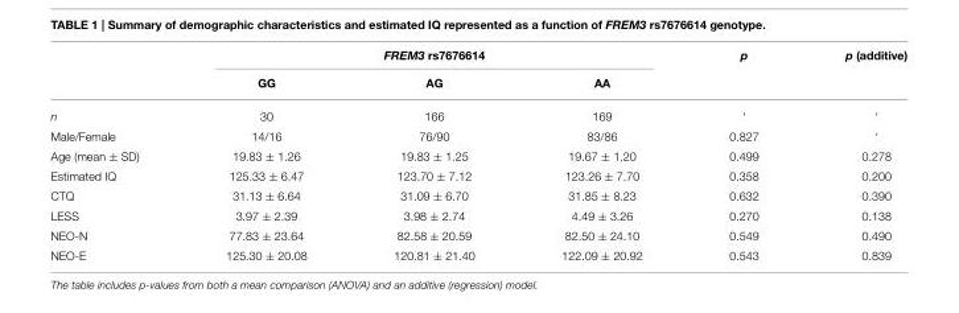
<table><thead><tr><td rowspan="2"></td><td colspan="3">FREM3 rs7676614</td><td rowspan="2">p</td><td rowspan="2">p (additive)</td></tr><tr><td>GG</td><td>AG</td><td>AA</td></tr></thead><tbody><tr><td>n</td><td>30</td><td>166</td><td>169</td><td>‘</td><td>‘</td></tr><tr><td>Male/Female</td><td>14/16</td><td>76/90</td><td>83/86</td><td>0.827</td><td>‘</td></tr><tr><td>Age (mean ± SD)</td><td>19.83 ± 1.26</td><td>19.83 ± 1.25</td><td>19.67 ± 1.20</td><td>0.499</td><td>0.278</td></tr><tr><td>Estimated IQ</td><td>125.33 ± 6.47</td><td>123.70 ± 7.12</td><td>123.26 ± 7.70</td><td>0.358</td><td>0.200</td></tr><tr><td>CTQ</td><td>31.13 ± 6.64</td><td>31.09 ± 6.70</td><td>31.85 ± 8.23</td><td>0.632</td><td>0.390</td></tr><tr><td>LESS</td><td>3.97 ± 2.39</td><td>3.98 ± 2.74</td><td>4.49 ± 3.26</td><td>0.270</td><td>0.138</td></tr><tr><td>NEO-N</td><td>77.83 ± 23.64</td><td>82.58 ± 20.59</td><td>82.50 ± 24.10</td><td>0.549</td><td>0.490</td></tr><tr><td>NEO-E</td><td>125.30 ± 20.08</td><td>120.81 ± 21.40</td><td>122.09 ± 20.92</td><td>0.543</td><td>0.839</td></tr></tbody></table>